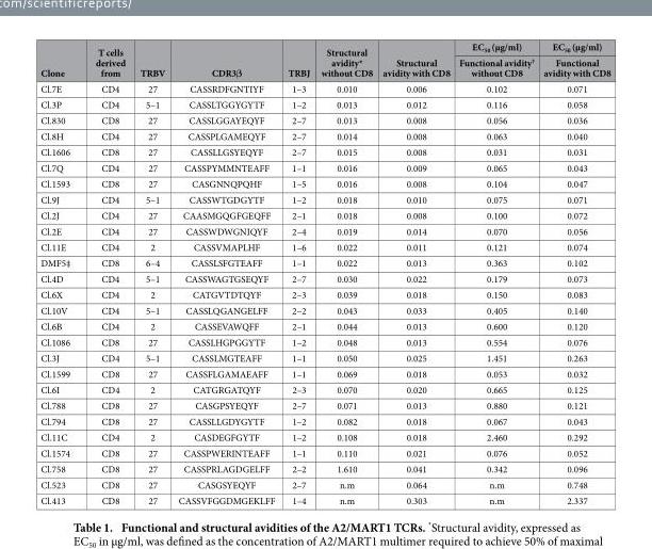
<table><thead><tr><td rowspan="2">Clone</td><td rowspan="2">T cells derived from</td><td rowspan="2">TRBV</td><td rowspan="2">CDR3β</td><td rowspan="2">TRBJ</td><td rowspan="2">Structural avidity* without CD8</td><td rowspan="2">Structural avidity with CD8</td><td rowspan="2">EC<sub>50</sub> (μg/ml) Functional avidity† without CD8</td><td rowspan="2">EC<sub>50</sub> (μg/ml) Functional avidity with CD8</td></tr><tr></tr></thead><tbody><tr><td>Cl.7E</td><td>CD4</td><td>27</td><td>CASSRDFGNTIYF</td><td>1–3</td><td>0.010</td><td>0.006</td><td>0.102</td><td>0.071</td></tr><tr><td>Cl.3P</td><td>CD4</td><td>5–1</td><td>CASSLTGGYGYTF</td><td>1–2</td><td>0.013</td><td>0.012</td><td>0.116</td><td>0.058</td></tr><tr><td>Cl.830</td><td>CD8</td><td>27</td><td>CASSLGGAYEQYF</td><td>2–7</td><td>0.013</td><td>0.008</td><td>0.056</td><td>0.036</td></tr><tr><td>Cl.8H</td><td>CD4</td><td>27</td><td>CASSPLGAMEQYF</td><td>2–7</td><td>0.014</td><td>0.008</td><td>0.063</td><td>0.040</td></tr><tr><td>Cl.1606</td><td>CD8</td><td>27</td><td>CASSLLGSYEQYF</td><td>2–7</td><td>0.015</td><td>0.008</td><td>0.031</td><td>0.031</td></tr><tr><td>Cl.7Q</td><td>CD4</td><td>27</td><td>CASSPYMMNTEAFF</td><td>1–1</td><td>0.016</td><td>0.009</td><td>0.065</td><td>0.043</td></tr><tr><td>Cl.1593</td><td>CD8</td><td>27</td><td>CASGNNQPQHF</td><td>1–5</td><td>0.016</td><td>0.008</td><td>0.104</td><td>0.047</td></tr><tr><td>Cl.9J</td><td>CD4</td><td>5–1</td><td>CASSWTGDGYTF</td><td>1–2</td><td>0.018</td><td>0.010</td><td>0.075</td><td>0.071</td></tr><tr><td>Cl.2J</td><td>CD4</td><td>27</td><td>CAASMGQGFGEQFF</td><td>2–1</td><td>0.018</td><td>0.008</td><td>0.100</td><td>0.072</td></tr><tr><td>Cl.2E</td><td>CD4</td><td>27</td><td>CASSWDWGNIQYF</td><td>2–4</td><td>0.019</td><td>0.014</td><td>0.070</td><td>0.056</td></tr><tr><td>Cl.11E</td><td>CD4</td><td>2</td><td>CASSVMAPLHF</td><td>1–6</td><td>0.022</td><td>0.011</td><td>0.121</td><td>0.074</td></tr><tr><td>DMF5‡</td><td>CD8</td><td>6–4</td><td>CASSLSFGTEAFF</td><td>1–1</td><td>0.022</td><td>0.013</td><td>0.363</td><td>0.102</td></tr><tr><td>Cl.4D</td><td>CD4</td><td>5–1</td><td>CASSWAGTGSEQYF</td><td>2–7</td><td>0.030</td><td>0.022</td><td>0.179</td><td>0.073</td></tr><tr><td>Cl.6X</td><td>CD4</td><td>2</td><td>CATGVTDTQYF</td><td>2–3</td><td>0.039</td><td>0.018</td><td>0.150</td><td>0.083</td></tr><tr><td>Cl.10V</td><td>CD4</td><td>5–1</td><td>CASSLQGANGELFF</td><td>2–2</td><td>0.043</td><td>0.033</td><td>0.405</td><td>0.140</td></tr><tr><td>Cl.6B</td><td>CD4</td><td>2</td><td>CASSEVAWQFF</td><td>2–1</td><td>0.044</td><td>0.013</td><td>0.600</td><td>0.120</td></tr><tr><td>Cl.1086</td><td>CD8</td><td>27</td><td>CASSLHGPGGYTF</td><td>1–2</td><td>0.048</td><td>0.013</td><td>0.554</td><td>0.076</td></tr><tr><td>Cl.3J</td><td>CD4</td><td>5–1</td><td>CASSLMGTEAFF</td><td>1–1</td><td>0.050</td><td>0.025</td><td>1.451</td><td>0.263</td></tr><tr><td>Cl.1599</td><td>CD8</td><td>27</td><td>CASSFLGAMAEAFF</td><td>1–1</td><td>0.069</td><td>0.018</td><td>0.053</td><td>0.032</td></tr><tr><td>Cl.6I</td><td>CD4</td><td>2</td><td>CATGRGATQYF</td><td>2–3</td><td>0.070</td><td>0.020</td><td>0.665</td><td>0.125</td></tr><tr><td>Cl.788</td><td>CD8</td><td>27</td><td>CASGPSYEQYF</td><td>2–7</td><td>0.071</td><td>0.013</td><td>0.880</td><td>0.121</td></tr><tr><td>Cl.794</td><td>CD8</td><td>27</td><td>CASSLLGDYGYTF</td><td>1–2</td><td>0.082</td><td>0.018</td><td>0.067</td><td>0.043</td></tr><tr><td>Cl.11C</td><td>CD4</td><td>2</td><td>CASDEGFGYTF</td><td>1–2</td><td>0.108</td><td>0.018</td><td>2.460</td><td>0.292</td></tr><tr><td>Cl.1574</td><td>CD8</td><td>27</td><td>CASSPWERINTEAFF</td><td>1–1</td><td>0.110</td><td>0.021</td><td>0.076</td><td>0.052</td></tr><tr><td>Cl.758</td><td>CD8</td><td>27</td><td>CASSPRLAGDGELFF</td><td>2–2</td><td>1.610</td><td>0.041</td><td>0.342</td><td>0.096</td></tr><tr><td>Cl.523</td><td>CD8</td><td>27</td><td>CASGSYEQYF</td><td>2–7</td><td>n.m</td><td>0.064</td><td>n.m</td><td>0.748</td></tr><tr><td>Cl.413</td><td>CD8</td><td>27</td><td>CASSVFGGDMGEKLFF</td><td>1–4</td><td>n.m</td><td>0.303</td><td>n.m</td><td>2.337</td></tr></tbody></table>